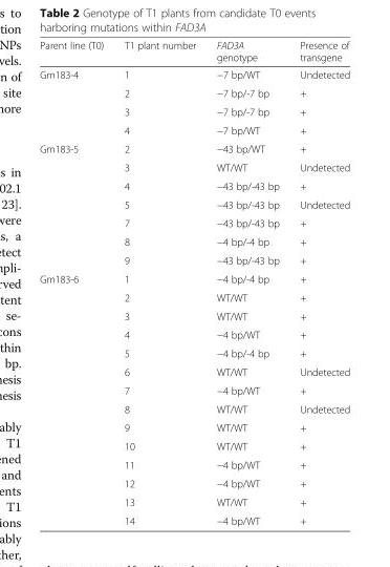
<table><thead><tr><td>Parent line (T0)</td><td>T1 plant number</td><td>FAD3A genotype</td><td>Presence of transgene</td></tr></thead><tbody><tr><td rowspan="4">Gm183-4</td><td>1</td><td>−7 bp/WT</td><td>Undetected</td></tr><tr><td>2</td><td>−7 bp/-7 bp</td><td>+</td></tr><tr><td>3</td><td>−7 bp/-7 bp</td><td>+</td></tr><tr><td>4</td><td>−7 bp/WT</td><td>+</td></tr><tr><td rowspan="7">Gm183-5</td><td>2</td><td>−43 bp/WT</td><td>+</td></tr><tr><td>3</td><td>WT/WT</td><td>Undetected</td></tr><tr><td>4</td><td>−43 bp/-43 bp</td><td>+</td></tr><tr><td>5</td><td>−43 bp/-43 bp</td><td>Undetected</td></tr><tr><td>7</td><td>−43 bp/-43 bp</td><td>+</td></tr><tr><td>8</td><td>−4 bp/-4 bp</td><td>+</td></tr><tr><td>9</td><td>−43 bp/-43 bp</td><td>+</td></tr><tr><td rowspan="14">Gm183-6</td><td>1</td><td>−4 bp/-4 bp</td><td>+</td></tr><tr><td>2</td><td>WT/WT</td><td>+</td></tr><tr><td>3</td><td>WT/WT</td><td>+</td></tr><tr><td>4</td><td>−4 bp/WT</td><td>+</td></tr><tr><td>5</td><td>−4 bp/-4 bp</td><td>+</td></tr><tr><td>6</td><td>WT/WT</td><td>Undetected</td></tr><tr><td>7</td><td>−4 bp/WT</td><td>+</td></tr><tr><td>8</td><td>WT/WT</td><td>Undetected</td></tr><tr><td>9</td><td>WT/WT</td><td>+</td></tr><tr><td>10</td><td>WT/WT</td><td>+</td></tr><tr><td>11</td><td>−4 bp/WT</td><td>+</td></tr><tr><td>12</td><td>−4 bp/WT</td><td>+</td></tr><tr><td>13</td><td>WT/WT</td><td>+</td></tr><tr><td>14</td><td>−4 bp/WT</td><td>+</td></tr></tbody></table>